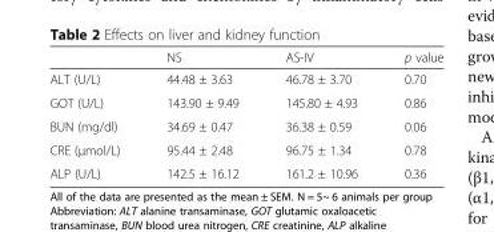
<table><thead><tr><td></td><td>NS</td><td>AS-IV</td><td>p value</td></tr></thead><tbody><tr><td>ALT (U/L)</td><td>44.48 ± 3.63</td><td>46.78 ± 3.70</td><td>0.70</td></tr><tr><td>GOT (U/L)</td><td>143.90 ± 9.49</td><td>145.80 ± 4.93</td><td>0.86</td></tr><tr><td>BUN (mg/dl)</td><td>34.69 ± 0.47</td><td>36.38 ± 0.59</td><td>0.06</td></tr><tr><td>CRE (μmol/L)</td><td>95.44 ± 2.48</td><td>96.75 ± 1.34</td><td>0.78</td></tr><tr><td>ALP (U/L)</td><td>142.5 ± 16.12</td><td>161.2 ± 10.96</td><td>0.36</td></tr></tbody></table>